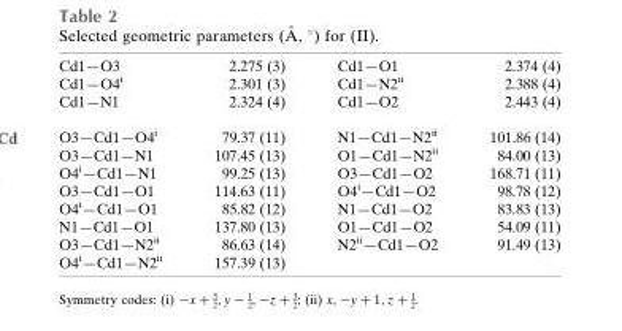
<table><tbody><tr><td>Cd1—O3</td><td>2.275 (3)</td><td>Cd1—O1</td><td>2.374 (4)</td></tr><tr><td>Cd1—O4<sup>i</sup></td><td>2.301 (3)</td><td>Cd1—N2<sup>ii</sup></td><td>2.388 (4)</td></tr><tr><td>Cd1—N1</td><td>2.324 (4)</td><td>Cd1—O2</td><td>2.443 (4)</td></tr><tr><td>O3—Cd1—O4<sup>i</sup></td><td>79.37 (11)</td><td>N1—Cd1—N2<sup>ii</sup></td><td>101.86 (14)</td></tr><tr><td>O3—Cd1—N1</td><td>107.45 (13)</td><td>O1—Cd1—N2<sup>ii</sup></td><td>84.00 (13)</td></tr><tr><td>O4<sup>i</sup>—Cd1—N1</td><td>99.25 (13)</td><td>O3—Cd1—O2</td><td>168.71 (11)</td></tr><tr><td>O3—Cd1—O1</td><td>114.63 (11)</td><td>O4<sup>i</sup>—Cd1—O2</td><td>98.78 (12)</td></tr><tr><td>O4<sup>i</sup>—Cd1—O1</td><td>85.82 (12)</td><td>N1—Cd1—O2</td><td>83.83 (13)</td></tr><tr><td>N1—Cd1—O1</td><td>137.80 (13)</td><td>O1—Cd1—O2</td><td>54.09 (11)</td></tr><tr><td>O3—Cd1—N2<sup>ii</sup></td><td>86.63 (14)</td><td>N2<sup>ii</sup>—Cd1—O2</td><td>91.49 (13)</td></tr><tr><td>O4<sup>i</sup>—Cd1—N2<sup>ii</sup></td><td>157.39 (13)</td><td></td><td></td></tr></tbody></table>